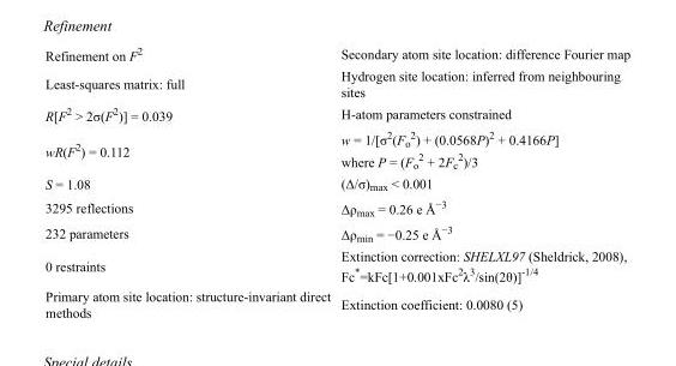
<table><tbody><tr><td>Refinement on F<sup>2</sup></td><td>Secondary atom site location: difference Fourier map</td></tr><tr><td>Least-squares matrix: full</td><td>Hydrogen site location: inferred from neighbouring sites</td></tr><tr><td>R[F<sup>2</sup> &gt; 2σ(F<sup>2</sup>)] = 0.039</td><td>H-atom parameters constrained</td></tr><tr><td>wR(F<sup>2</sup>) = 0.112</td><td>w = 1/[σ<sup>2</sup>(F<sub>o</sub> <sup>2</sup>) + (0.0568P)<sup>2</sup> + 0.4166P] where P = (F<sub>o</sub> <sup>2</sup> + 2F<sub>c</sub> <sup>2</sup>)/3</td></tr><tr><td>S = 1.08</td><td>(Δ/σ)<sub>max</sub> &lt; 0.001</td></tr><tr><td>3295 reflections</td><td>Δρ<sub>max</sub> = 0.26 e Å<sup>−3</sup></td></tr><tr><td>232 parameters</td><td>Δρ<sub>min</sub> = −0.25 e Å<sup>−3</sup></td></tr><tr><td>0 restraints</td><td>Extinction correction: SHELXL97 (Sheldrick, 2008), Fc*=kFc[1+0.001xFc<sup>2</sup>λ<sup>3</sup>/sin(2θ)]<sup>-1/4</sup></td></tr><tr><td>Primary atom site location: structure-invariant direct methods</td><td>Extinction coefficient: 0.0080 (5)</td></tr></tbody></table>